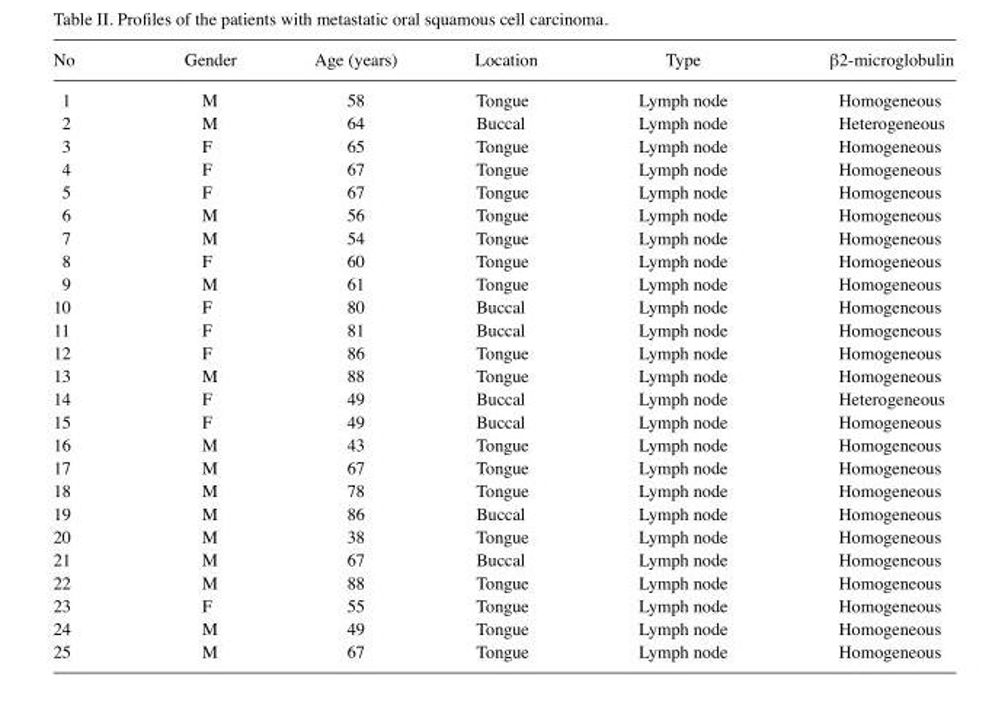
<table><thead><tr><td>No</td><td>Gender</td><td>Age (years)</td><td>Location</td><td>Type</td><td>β2-microglobulin</td></tr></thead><tbody><tr><td>1</td><td>M</td><td>58</td><td>Tongue</td><td>Lymph node</td><td>Homogeneous</td></tr><tr><td>2</td><td>M</td><td>64</td><td>Buccal</td><td>Lymph node</td><td>Heterogeneous</td></tr><tr><td>3</td><td>F</td><td>65</td><td>Tongue</td><td>Lymph node</td><td>Homogeneous</td></tr><tr><td>4</td><td>F</td><td>67</td><td>Tongue</td><td>Lymph node</td><td>Homogeneous</td></tr><tr><td>5</td><td>F</td><td>67</td><td>Tongue</td><td>Lymph node</td><td>Homogeneous</td></tr><tr><td>6</td><td>M</td><td>56</td><td>Tongue</td><td>Lymph node</td><td>Homogeneous</td></tr><tr><td>7</td><td>M</td><td>54</td><td>Tongue</td><td>Lymph node</td><td>Homogeneous</td></tr><tr><td>8</td><td>F</td><td>60</td><td>Tongue</td><td>Lymph node</td><td>Homogeneous</td></tr><tr><td>9</td><td>M</td><td>61</td><td>Tongue</td><td>Lymph node</td><td>Homogeneous</td></tr><tr><td>10</td><td>F</td><td>80</td><td>Buccal</td><td>Lymph node</td><td>Homogeneous</td></tr><tr><td>11</td><td>F</td><td>81</td><td>Buccal</td><td>Lymph node</td><td>Homogeneous</td></tr><tr><td>12</td><td>F</td><td>86</td><td>Tongue</td><td>Lymph node</td><td>Homogeneous</td></tr><tr><td>13</td><td>M</td><td>88</td><td>Tongue</td><td>Lymph node</td><td>Homogeneous</td></tr><tr><td>14</td><td>F</td><td>49</td><td>Buccal</td><td>Lymph node</td><td>Heterogeneous</td></tr><tr><td>15</td><td>F</td><td>49</td><td>Buccal</td><td>Lymph node</td><td>Homogeneous</td></tr><tr><td>16</td><td>M</td><td>43</td><td>Tongue</td><td>Lymph node</td><td>Homogeneous</td></tr><tr><td>17</td><td>M</td><td>67</td><td>Tongue</td><td>Lymph node</td><td>Homogeneous</td></tr><tr><td>18</td><td>M</td><td>78</td><td>Tongue</td><td>Lymph node</td><td>Homogeneous</td></tr><tr><td>19</td><td>M</td><td>86</td><td>Buccal</td><td>Lymph node</td><td>Homogeneous</td></tr><tr><td>20</td><td>M</td><td>38</td><td>Tongue</td><td>Lymph node</td><td>Homogeneous</td></tr><tr><td>21</td><td>M</td><td>67</td><td>Buccal</td><td>Lymph node</td><td>Homogeneous</td></tr><tr><td>22</td><td>M</td><td>88</td><td>Tongue</td><td>Lymph node</td><td>Homogeneous</td></tr><tr><td>23</td><td>F</td><td>55</td><td>Tongue</td><td>Lymph node</td><td>Homogeneous</td></tr><tr><td>24</td><td>M</td><td>49</td><td>Tongue</td><td>Lymph node</td><td>Homogeneous</td></tr><tr><td>25</td><td>M</td><td>67</td><td>Tongue</td><td>Lymph node</td><td>Homogeneous</td></tr></tbody></table>